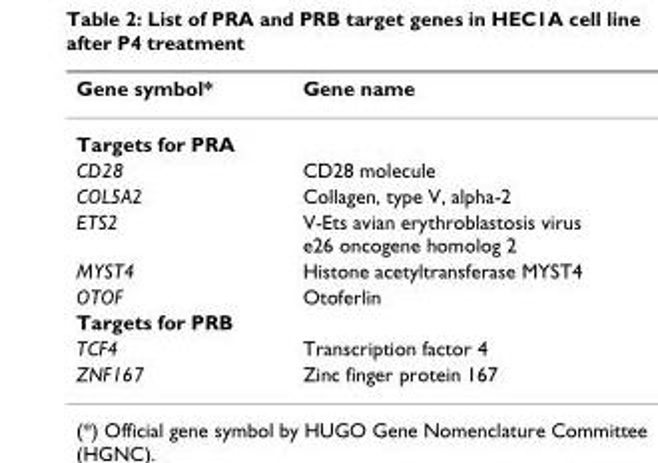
<table><thead><tr><td>Gene symbol*</td><td>Gene name</td></tr></thead><tbody><tr><td colspan="2">Targets for PRA</td></tr><tr><td>CD28</td><td>CD28 molecule</td></tr><tr><td>COL5A2</td><td>Collagen, type V, alpha-2</td></tr><tr><td>ETS2</td><td>V-Ets avian erythroblastosis virus e26 oncogene homolog 2</td></tr><tr><td>MYST4</td><td>Histone acetyltransferase MYST4</td></tr><tr><td>OTOF</td><td>Otoferlin</td></tr><tr><td colspan="2">Targets for PRB</td></tr><tr><td>TCF4</td><td>Transcription factor 4</td></tr><tr><td>ZNF167</td><td>Zinc finger protein 167</td></tr></tbody></table>